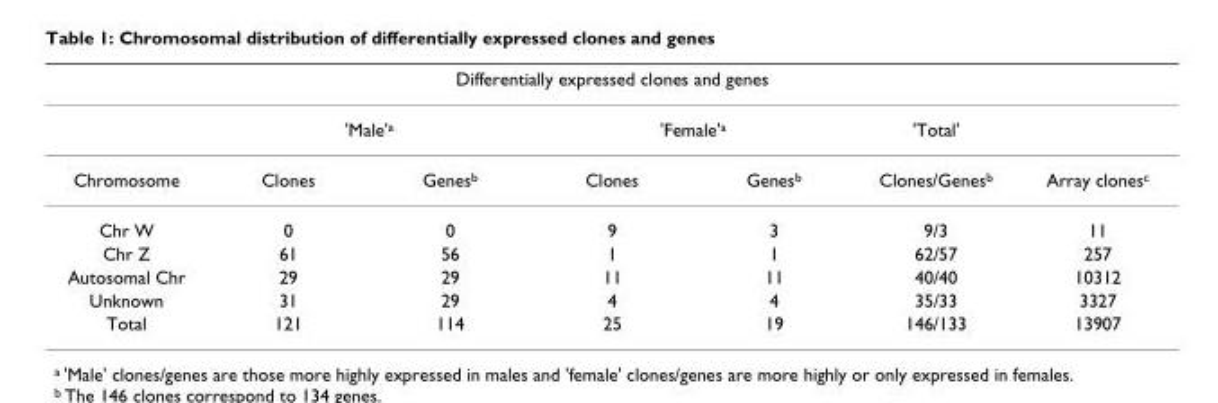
<table><thead><tr><td rowspan="3">Chromosome</td><td colspan="5">Differentially expressed clones and genes</td><td rowspan="3">Array clonesc</td></tr><tr><td colspan="2">&#x27;Male&#x27;a</td><td colspan="2">&#x27;Female&#x27;a</td><td rowspan="2">&#x27;Total&#x27; Clones/Genesb</td></tr><tr><td>Clones</td><td>Genesb</td><td>Clones</td><td>Genesb</td></tr></thead><tbody><tr><td>Chr W</td><td>0</td><td>0</td><td>9</td><td>3</td><td>9/3</td><td>11</td></tr><tr><td>Chr Z</td><td>61</td><td>56</td><td>1</td><td>1</td><td>62/57</td><td>257</td></tr><tr><td>Autosomal Chr</td><td>29</td><td>29</td><td>11</td><td>11</td><td>40/40</td><td>10312</td></tr><tr><td>Unknown</td><td>31</td><td>29</td><td>4</td><td>4</td><td>35/33</td><td>3327</td></tr><tr><td>Total</td><td>121</td><td>114</td><td>25</td><td>19</td><td>146/133</td><td>13907</td></tr></tbody></table>